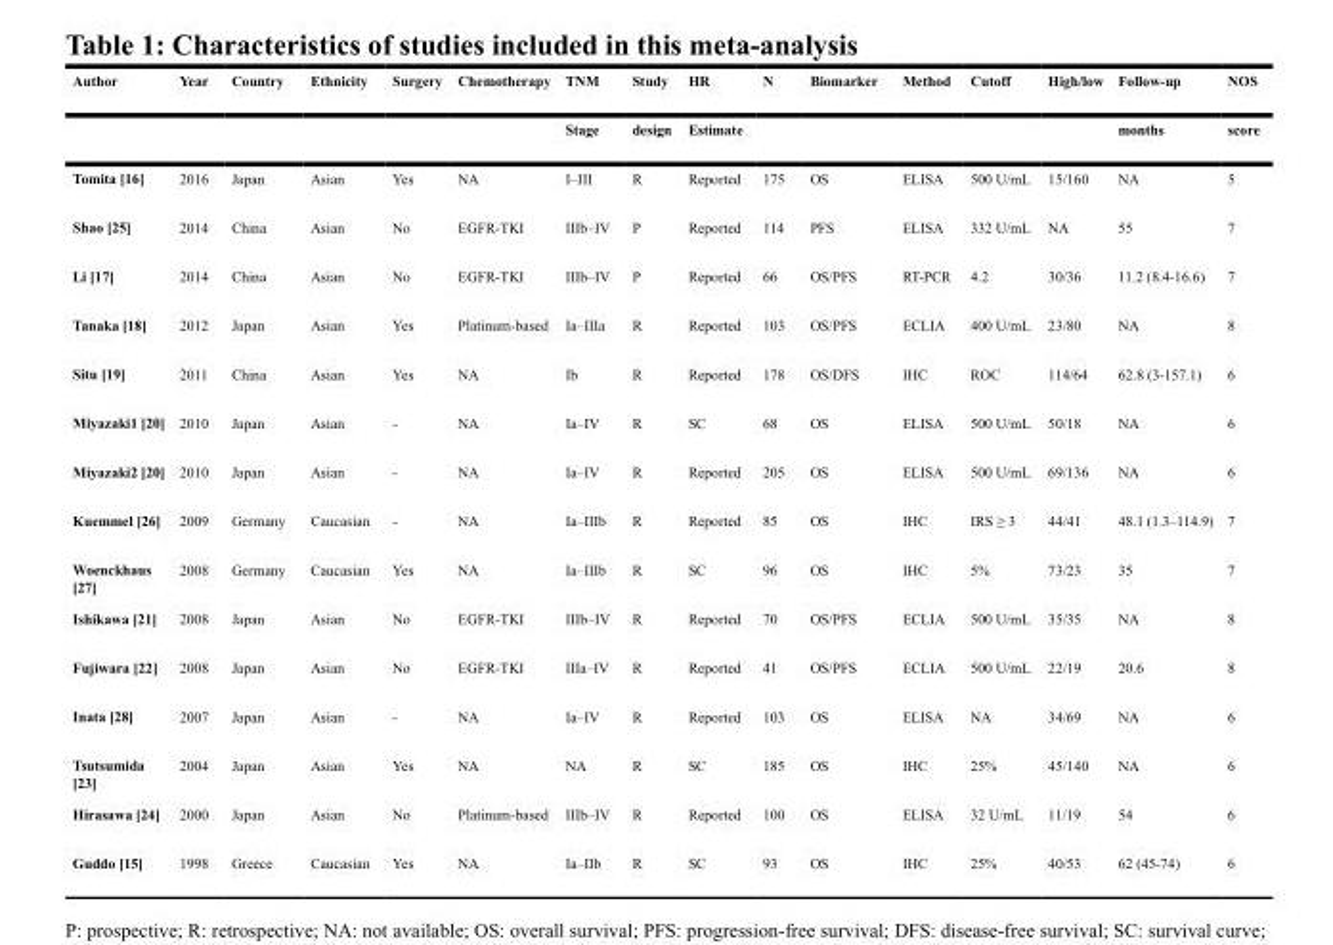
<table><thead><tr><td rowspan="2">Author</td><td rowspan="2">Year</td><td rowspan="2">Country</td><td rowspan="2">Ethnicity</td><td rowspan="2">Surgery</td><td rowspan="2">Chemotherapy</td><td rowspan="2">TNM Stage</td><td rowspan="2">Study design</td><td rowspan="2">HR Estimate</td><td rowspan="2">N</td><td rowspan="2">Biomarker</td><td rowspan="2">Method</td><td rowspan="2">Cutoff</td><td rowspan="2">High/low</td><td rowspan="2">Follow-up months</td><td rowspan="2">NOS score</td></tr><tr></tr></thead><tbody><tr><td>Tomita [16]</td><td>2016</td><td>Japan</td><td>Asian</td><td>Yes</td><td>NA</td><td>I–III</td><td>R</td><td>Reported</td><td>175</td><td>OS</td><td>ELISA</td><td>500 U/mL</td><td>15/160</td><td>NA</td><td>5</td></tr><tr><td>Shao [25]</td><td>2014</td><td>China</td><td>Asian</td><td>No</td><td>EGFR-TKI</td><td>IIIb–IV</td><td>P</td><td>Reported</td><td>114</td><td>PFS</td><td>ELISA</td><td>332 U/mL</td><td>NA</td><td>55</td><td>7</td></tr><tr><td>Li [17]</td><td>2014</td><td>China</td><td>Asian</td><td>No</td><td>EGFR-TKI</td><td>IIIb–IV</td><td>P</td><td>Reported</td><td>66</td><td>OS/PFS</td><td>RT-PCR</td><td>4.2</td><td>30/36</td><td>11.2 (8.4-16.6)</td><td>7</td></tr><tr><td>Tanaka [18]</td><td>2012</td><td>Japan</td><td>Asian</td><td>Yes</td><td>Platinum-based</td><td>Ia–IIIa</td><td>R</td><td>Reported</td><td>103</td><td>OS/PFS</td><td>ECLIA</td><td>400 U/mL</td><td>23/80</td><td>NA</td><td>8</td></tr><tr><td>Situ [19]</td><td>2011</td><td>China</td><td>Asian</td><td>Yes</td><td>NA</td><td>Ib</td><td>R</td><td>Reported</td><td>178</td><td>OS/DFS</td><td>IHC</td><td>ROC</td><td>114/64</td><td>62.8 (3-157.1)</td><td>6</td></tr><tr><td>Miyazaki1 [20]</td><td>2010</td><td>Japan</td><td>Asian</td><td>-</td><td>NA</td><td>Ia–IV</td><td>R</td><td>SC</td><td>68</td><td>OS</td><td>ELISA</td><td>500 U/mL</td><td>50/18</td><td>NA</td><td>6</td></tr><tr><td>Miyazaki2 [20]</td><td>2010</td><td>Japan</td><td>Asian</td><td>-</td><td>NA</td><td>Ia–IV</td><td>R</td><td>Reported</td><td>205</td><td>OS</td><td>ELISA</td><td>500 U/mL</td><td>69/136</td><td>NA</td><td>6</td></tr><tr><td>Kuemmel [26]</td><td>2009</td><td>Germany</td><td>Caucasian</td><td>-</td><td>NA</td><td>Ia–IIIb</td><td>R</td><td>Reported</td><td>85</td><td>OS</td><td>IHC</td><td>IRS ≥ 3</td><td>44/41</td><td>48.1 (1.3–114.9)</td><td>7</td></tr><tr><td>Woenckhaus [27]</td><td>2008</td><td>Germany</td><td>Caucasian</td><td>Yes</td><td>NA</td><td>Ia–IIIb</td><td>R</td><td>SC</td><td>96</td><td>OS</td><td>IHC</td><td>5%</td><td>73/23</td><td>35</td><td>7</td></tr><tr><td>Ishikawa [21]</td><td>2008</td><td>Japan</td><td>Asian</td><td>No</td><td>EGFR-TKI</td><td>IIIb–IV</td><td>R</td><td>Reported</td><td>70</td><td>OS/PFS</td><td>ECLIA</td><td>500 U/mL</td><td>35/35</td><td>NA</td><td>8</td></tr><tr><td>Fujiwara [22]</td><td>2008</td><td>Japan</td><td>Asian</td><td>No</td><td>EGFR-TKI</td><td>IIIa–IV</td><td>R</td><td>Reported</td><td>41</td><td>OS/PFS</td><td>ECLIA</td><td>500 U/mL</td><td>22/19</td><td>20.6</td><td>8</td></tr><tr><td>Inata [28]</td><td>2007</td><td>Japan</td><td>Asian</td><td>-</td><td>NA</td><td>Ia–IV</td><td>R</td><td>Reported</td><td>103</td><td>OS</td><td>ELISA</td><td>NA</td><td>34/69</td><td>NA</td><td>6</td></tr><tr><td>Tsutsumida [23]</td><td>2004</td><td>Japan</td><td>Asian</td><td>Yes</td><td>NA</td><td>NA</td><td>R</td><td>SC</td><td>185</td><td>OS</td><td>IHC</td><td>25%</td><td>45/140</td><td>NA</td><td>6</td></tr><tr><td>Hirasawa [24]</td><td>2000</td><td>Japan</td><td>Asian</td><td>No</td><td>Platinum-based</td><td>IIIb–IV</td><td>R</td><td>Reported</td><td>100</td><td>OS</td><td>ELISA</td><td>32 U/mL</td><td>11/19</td><td>54</td><td>6</td></tr><tr><td>Guddo [15]</td><td>1998</td><td>Greece</td><td>Caucasian</td><td>Yes</td><td>NA</td><td>Ia–IIb</td><td>R</td><td>SC</td><td>93</td><td>OS</td><td>IHC</td><td>25%</td><td>40/53</td><td>62 (45-74)</td><td>6</td></tr></tbody></table>